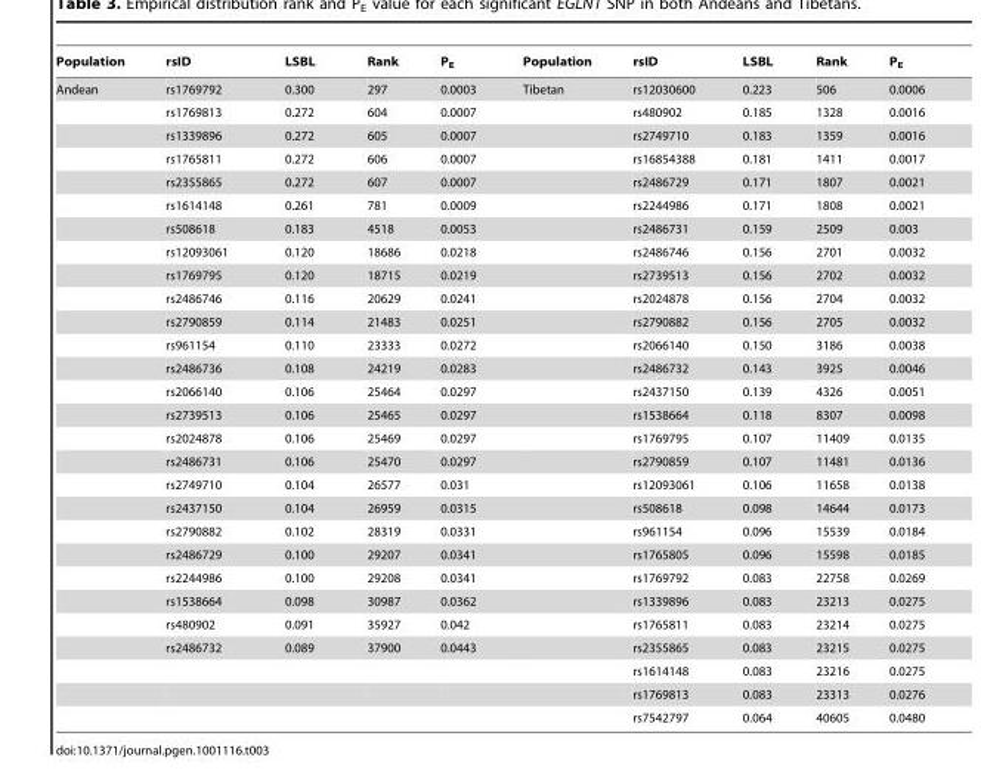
<table><thead><tr><td>Population</td><td>rsID</td><td>LSBL</td><td>Rank</td><td>P<sub>E</sub></td><td>Population</td><td>rsID</td><td>LSBL</td><td>Rank</td><td>P<sub>E</sub></td></tr></thead><tbody><tr><td rowspan="28">Andean</td><td>rs1769792</td><td>0.300</td><td>297</td><td>0.0003</td><td>Tibetan</td><td>rs12030600</td><td>0.223</td><td>506</td><td>0.0006</td></tr><tr><td>rs1769813</td><td>0.272</td><td>604</td><td>0.0007</td><td></td><td>rs480902</td><td>0.185</td><td>1328</td><td>0.0016</td></tr><tr><td>rs1339896</td><td>0.272</td><td>605</td><td>0.0007</td><td></td><td>rs2749710</td><td>0.183</td><td>1359</td><td>0.0016</td></tr><tr><td>rs1765811</td><td>0.272</td><td>606</td><td>0.0007</td><td></td><td>rs16854388</td><td>0.181</td><td>1411</td><td>0.0017</td></tr><tr><td>rs2355865</td><td>0.272</td><td>607</td><td>0.0007</td><td></td><td>rs2486729</td><td>0.171</td><td>1807</td><td>0.0021</td></tr><tr><td>rs1614148</td><td>0.261</td><td>781</td><td>0.0009</td><td></td><td>rs2244986</td><td>0.171</td><td>1808</td><td>0.0021</td></tr><tr><td>rs508618</td><td>0.183</td><td>4518</td><td>0.0053</td><td></td><td>rs2486731</td><td>0.159</td><td>2509</td><td>0.003</td></tr><tr><td>rs12093061</td><td>0.120</td><td>18686</td><td>0.0218</td><td></td><td>rs2486746</td><td>0.156</td><td>2701</td><td>0.0032</td></tr><tr><td>rs1769795</td><td>0.120</td><td>18715</td><td>0.0219</td><td></td><td>rs2739513</td><td>0.156</td><td>2702</td><td>0.0032</td></tr><tr><td>rs2486746</td><td>0.116</td><td>20629</td><td>0.0241</td><td></td><td>rs2024878</td><td>0.156</td><td>2704</td><td>0.0032</td></tr><tr><td>rs2790859</td><td>0.114</td><td>21483</td><td>0.0251</td><td></td><td>rs2790882</td><td>0.156</td><td>2705</td><td>0.0032</td></tr><tr><td>rs961154</td><td>0.110</td><td>23333</td><td>0.0272</td><td></td><td>rs2066140</td><td>0.150</td><td>3186</td><td>0.0038</td></tr><tr><td>rs2486736</td><td>0.108</td><td>24219</td><td>0.0283</td><td></td><td>rs2486732</td><td>0.143</td><td>3925</td><td>0.0046</td></tr><tr><td>rs2066140</td><td>0.106</td><td>25464</td><td>0.0297</td><td></td><td>rs2437150</td><td>0.139</td><td>4326</td><td>0.0051</td></tr><tr><td>rs2739513</td><td>0.106</td><td>25465</td><td>0.0297</td><td></td><td>rs1538664</td><td>0.118</td><td>8307</td><td>0.0098</td></tr><tr><td>rs2024878</td><td>0.106</td><td>25469</td><td>0.0297</td><td></td><td>rs1769795</td><td>0.107</td><td>11409</td><td>0.0135</td></tr><tr><td>rs2486731</td><td>0.106</td><td>25470</td><td>0.0297</td><td></td><td>rs2790859</td><td>0.107</td><td>11481</td><td>0.0136</td></tr><tr><td>rs2749710</td><td>0.104</td><td>26577</td><td>0.031</td><td></td><td>rs12093061</td><td>0.106</td><td>11658</td><td>0.0138</td></tr><tr><td>rs2437150</td><td>0.104</td><td>26959</td><td>0.0315</td><td></td><td>rs508618</td><td>0.098</td><td>14644</td><td>0.0173</td></tr><tr><td>rs2790882</td><td>0.102</td><td>28319</td><td>0.0331</td><td></td><td>rs961154</td><td>0.096</td><td>15539</td><td>0.0184</td></tr><tr><td>rs2486729</td><td>0.100</td><td>29207</td><td>0.0341</td><td></td><td>rs1765805</td><td>0.096</td><td>15598</td><td>0.0185</td></tr><tr><td>rs2244986</td><td>0.100</td><td>29208</td><td>0.0341</td><td></td><td>rs1769792</td><td>0.083</td><td>22758</td><td>0.0269</td></tr><tr><td>rs1538664</td><td>0.098</td><td>30987</td><td>0.0362</td><td></td><td>rs1339896</td><td>0.083</td><td>23213</td><td>0.0275</td></tr><tr><td>rs480902</td><td>0.091</td><td>35927</td><td>0.042</td><td></td><td>rs1765811</td><td>0.083</td><td>23214</td><td>0.0275</td></tr><tr><td>rs2486732</td><td>0.089</td><td>37900</td><td>0.0443</td><td></td><td>rs2355865</td><td>0.083</td><td>23215</td><td>0.0275</td></tr><tr><td></td><td></td><td></td><td></td><td></td><td>rs1614148</td><td>0.083</td><td>23216</td><td>0.0275</td></tr><tr><td></td><td></td><td></td><td></td><td></td><td>rs1769813</td><td>0.083</td><td>23313</td><td>0.0276</td></tr><tr><td></td><td></td><td></td><td></td><td></td><td>rs7542797</td><td>0.064</td><td>40605</td><td>0.0480</td></tr></tbody></table>